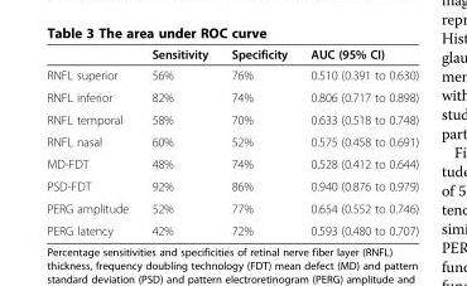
<table><thead><tr><td></td><td>Sensitivity</td><td>Specificity</td><td>AUC (95% CI)</td></tr></thead><tbody><tr><td>RNFL superior</td><td>56%</td><td>76%</td><td>0.510 (0.391 to 0.630)</td></tr><tr><td>RNFL inferior</td><td>82%</td><td>74%</td><td>0.806 (0.717 to 0.898)</td></tr><tr><td>RNFL temporal</td><td>58%</td><td>70%</td><td>0.633 (0.518 to 0.748)</td></tr><tr><td>RNFL nasal</td><td>60%</td><td>52%</td><td>0.575 (0.458 to 0.691)</td></tr><tr><td>MD-FDT</td><td>48%</td><td>74%</td><td>0.528 (0.412 to 0.644)</td></tr><tr><td>PSD-FDT</td><td>92%</td><td>86%</td><td>0.940 (0.876 to 0.979)</td></tr><tr><td>PERG amplitude</td><td>52%</td><td>77%</td><td>0.654 (0.552 to 0.746)</td></tr><tr><td>PERG latency</td><td>42%</td><td>72%</td><td>0.593 (0.480 to 0.707)</td></tr></tbody></table>